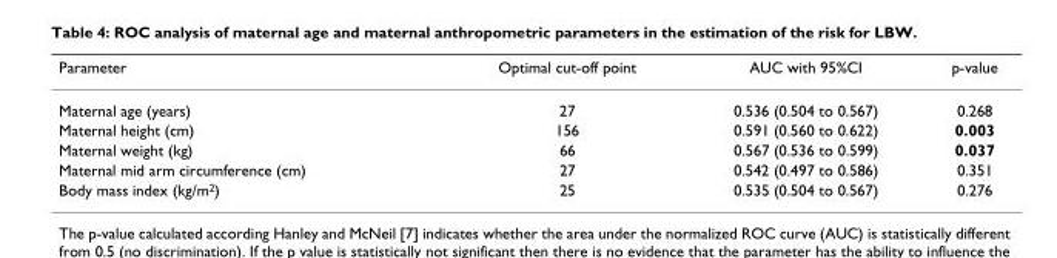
<table><thead><tr><td>Parameter</td><td>Optimal cut-off point</td><td>AUC with 95%CI</td><td>p-value</td></tr></thead><tbody><tr><td>Maternal age (years)</td><td>27</td><td>0.536 (0.504 to 0.567)</td><td>0.268</td></tr><tr><td>Maternal height (cm)</td><td>156</td><td>0.591 (0.560 to 0.622)</td><td>0.003</td></tr><tr><td>Maternal weight (kg)</td><td>66</td><td>0.567 (0.536 to 0.599)</td><td>0.037</td></tr><tr><td>Maternal mid arm circumference (cm)</td><td>27</td><td>0.542 (0.497 to 0.586)</td><td>0.351</td></tr><tr><td>Body mass index (kg/m<sup>2</sup>)</td><td>25</td><td>0.535 (0.504 to 0.567)</td><td>0.276</td></tr></tbody></table>